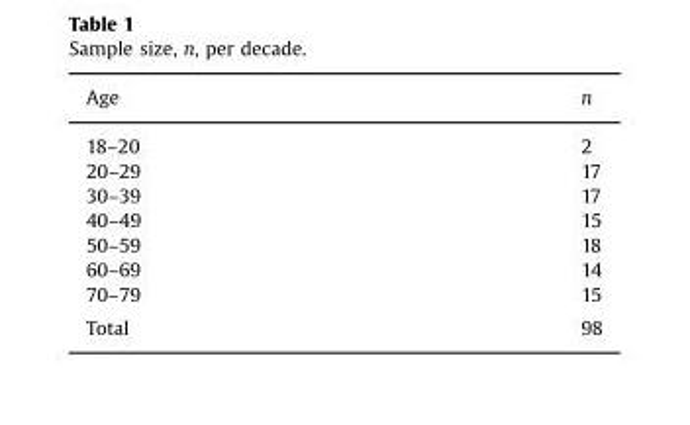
<table><thead><tr><td>Age</td><td>n</td></tr></thead><tbody><tr><td>18–20</td><td>2</td></tr><tr><td>20–29</td><td>17</td></tr><tr><td>30–39</td><td>17</td></tr><tr><td>40–49</td><td>15</td></tr><tr><td>50–59</td><td>18</td></tr><tr><td>60–69</td><td>14</td></tr><tr><td>70–79</td><td>15</td></tr><tr><td>Total</td><td>98</td></tr></tbody></table>